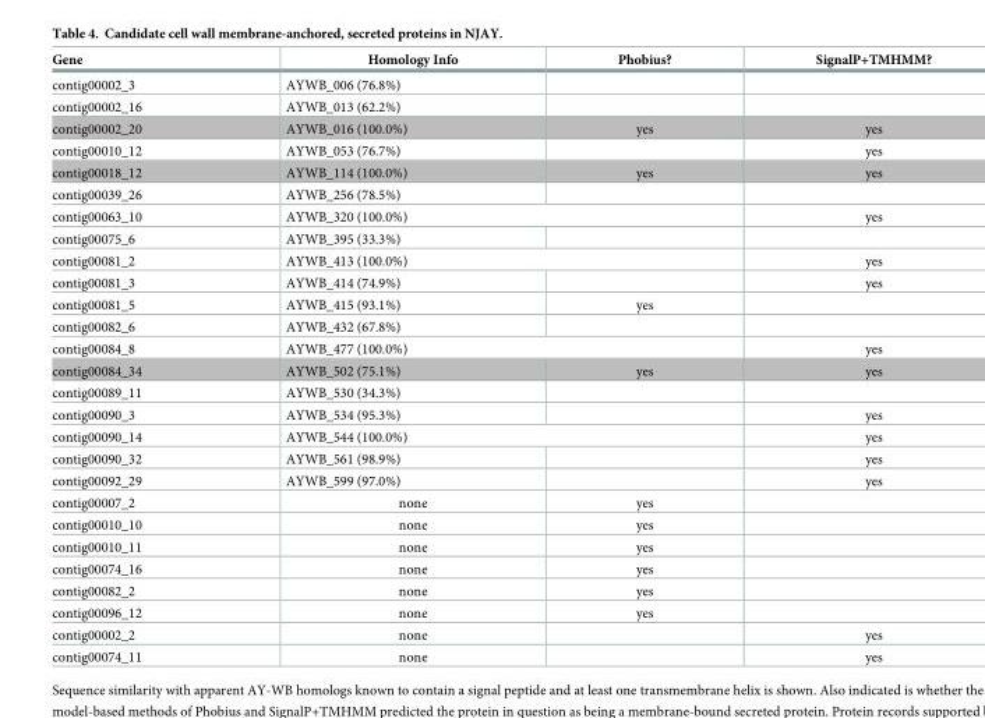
<table><thead><tr><td>Gene</td><td>Homology Info</td><td>Phobius?</td><td>SignalP+TMHMM?</td></tr></thead><tbody><tr><td>contig00002_3</td><td>AYWB_006 (76.8%)</td><td></td><td></td></tr><tr><td>contig00002_16</td><td>AYWB_013 (62.2%)</td><td></td><td></td></tr><tr><td>contig00002_20</td><td>AYWB_016 (100.0%)</td><td>yes</td><td>yes</td></tr><tr><td>contig00010_12</td><td>AYWB_053 (76.7%)</td><td></td><td>yes</td></tr><tr><td>contig00018_12</td><td>AYWB_114 (100.0%)</td><td>yes</td><td>yes</td></tr><tr><td>contig00039_26</td><td>AYWB_256 (78.5%)</td><td></td><td></td></tr><tr><td>contig00063_10</td><td colspan="2">AYWB_320 (100.0%)</td><td>yes</td></tr><tr><td>contig00075_6</td><td>AYWB_395 (33.3%)</td><td></td><td></td></tr><tr><td>contig00081_2</td><td colspan="2">AYWB_413 (100.0%)</td><td>yes</td></tr><tr><td>contig00081_3</td><td>AYWB_414 (74.9%)</td><td></td><td>yes</td></tr><tr><td>contig00081_5</td><td>AYWB_415 (93.1%)</td><td>yes</td><td></td></tr><tr><td>contig00082_6</td><td>AYWB_432 (67.8%)</td><td></td><td></td></tr><tr><td>contig00084_8</td><td colspan="2">AYWB_477 (100.0%)</td><td>yes</td></tr><tr><td>contig00084_34</td><td>AYWB_502 (75.1%)</td><td>yes</td><td>yes</td></tr><tr><td>contig00089_11</td><td>AYWB_530 (34.3%)</td><td></td><td></td></tr><tr><td>contig00090_3</td><td>AYWB_534 (95.3%)</td><td></td><td>yes</td></tr><tr><td>contig00090_14</td><td colspan="2">AYWB_544 (100.0%)</td><td>yes</td></tr><tr><td>contig00090_32</td><td>AYWB_561 (98.9%)</td><td></td><td>yes</td></tr><tr><td>contig00092_29</td><td>AYWB_599 (97.0%)</td><td></td><td>yes</td></tr><tr><td>contig00007_2</td><td>none</td><td>yes</td><td></td></tr><tr><td>contig00010_10</td><td>none</td><td>yes</td><td></td></tr><tr><td>contig00010_11</td><td>none</td><td>yes</td><td></td></tr><tr><td>contig00074_16</td><td>none</td><td>yes</td><td></td></tr><tr><td>contig00082_2</td><td>none</td><td>yes</td><td></td></tr><tr><td>contig00096_12</td><td>none</td><td>yes</td><td></td></tr><tr><td>contig00002_2</td><td>none</td><td></td><td>yes</td></tr><tr><td>contig00074_11</td><td>none</td><td></td><td>yes</td></tr></tbody></table>